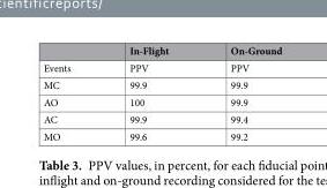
<table><thead><tr><td></td><td>In-Flight</td><td>On-Ground</td></tr></thead><tbody><tr><td>Events</td><td>PPV</td><td>PPV</td></tr><tr><td>MC</td><td>99.9</td><td>99.9</td></tr><tr><td>AO</td><td>100</td><td>99.9</td></tr><tr><td>AC</td><td>99.9</td><td>99.4</td></tr><tr><td>MO</td><td>99.6</td><td>99.2</td></tr></tbody></table>